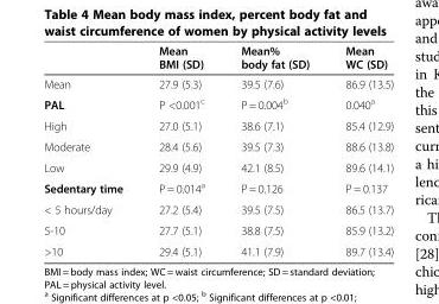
<table><thead><tr><td></td><td>Mean BMI (SD)</td><td>Mean% body fat (SD)</td><td>Mean WC (SD)</td></tr></thead><tbody><tr><td>Mean</td><td>27.9 (5.3)</td><td>39.5 (7.6)</td><td>86.9 (13.5)</td></tr><tr><td>PAL</td><td>P &lt;0.001<sup>c</sup></td><td>P = 0.004<sup>b</sup></td><td>0.040<sup>a</sup></td></tr><tr><td>High</td><td>27.0 (5.1)</td><td>38.6 (7.1)</td><td>85.4 (12.9)</td></tr><tr><td>Moderate</td><td>28.4 (5.6)</td><td>39.5 (7.3)</td><td>88.6 (13.8)</td></tr><tr><td>Low</td><td>29.9 (4.9)</td><td>42.1 (8.5)</td><td>89.6 (14.1)</td></tr><tr><td>Sedentary time</td><td>P = 0.014<sup>a</sup></td><td>P = 0.126</td><td>P = 0.137</td></tr><tr><td>&lt; 5 hours/day</td><td>27.2 (5.4)</td><td>39.5 (7.5)</td><td>86.5 (13.7)</td></tr><tr><td>5-10</td><td>27.7 (5.1)</td><td>38.8 (7.5)</td><td>85.9 (13.2)</td></tr><tr><td>&gt;10</td><td>29.4 (5.1)</td><td>41.1 (7.9)</td><td>89.7 (13.4)</td></tr></tbody></table>